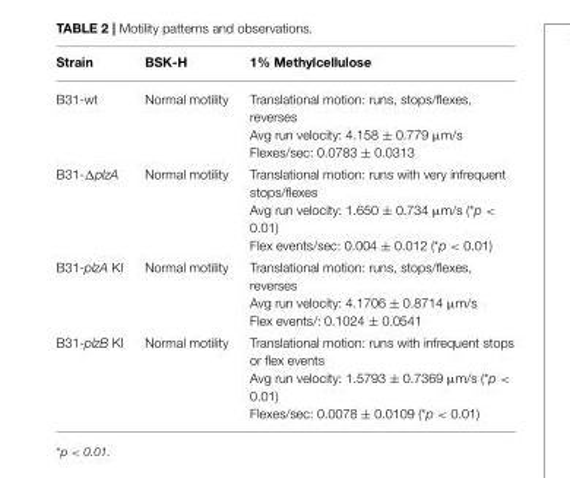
<table><thead><tr><td>Strain</td><td>BSK-H</td><td>1% Methylcellulose</td></tr></thead><tbody><tr><td>B31-wt</td><td>Normal motility</td><td>Translational motion: runs, stops/flexes, reverses Avg run velocity: 4.158 ± 0.779 µm/s Flexes/sec: 0.0783 ± 0.0313</td></tr><tr><td>B31-ΔplzA</td><td>Normal motility</td><td>Translational motion: runs with very infrequent stops/flexes Avg run velocity: 1.650 ± 0.734 µm/s (*p &lt; 0.01) Flex events/sec: 0.004 ± 0.012 (*p &lt; 0.01)</td></tr><tr><td>B31-plzA KI</td><td>Normal motility</td><td>Translational motion: runs, stops/flexes, reverses Avg run velocity: 4.1706 ± 0.8714 µm/s Flex events/: 0.1024 ± 0.0541</td></tr><tr><td>B31-plzB KI</td><td>Normal motility</td><td>Translational motion: runs with infrequent stops or flex events Avg run velocity: 1.5793 ± 0.7369 µm/s (*p &lt; 0.01) Flexes/sec: 0.0078 ± 0.0109 (*p &lt; 0.01)</td></tr></tbody></table>